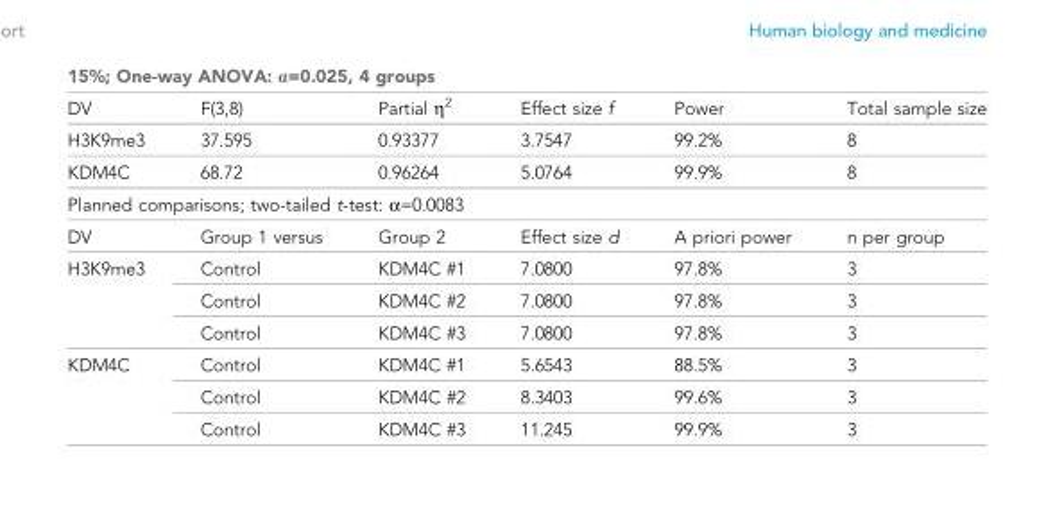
<table><thead><tr><td colspan="6">15%; One-way ANOVA: α=0.025, 4 groups</td></tr><tr><td>DV</td><td>F(3,8)</td><td>Partial η<sup>2</sup></td><td>Effect size f</td><td>Power</td><td>Total sample size</td></tr></thead><tbody><tr><td>H3K9me3</td><td>37.595</td><td>0.93377</td><td>3.7547</td><td>99.2%</td><td>8</td></tr><tr><td>KDM4C</td><td>68.72</td><td>0.96264</td><td>5.0764</td><td>99.9%</td><td>8</td></tr><tr><td colspan="6">Planned comparisons; two-tailed t-test: α=0.0083</td></tr><tr><td>DV</td><td>Group 1 versus</td><td>Group 2</td><td>Effect size d</td><td>A priori power</td><td>n per group</td></tr><tr><td rowspan="3">H3K9me3</td><td>Control</td><td>KDM4C #1</td><td>7.0800</td><td>97.8%</td><td>3</td></tr><tr><td>Control</td><td>KDM4C #2</td><td>7.0800</td><td>97.8%</td><td>3</td></tr><tr><td>Control</td><td>KDM4C #3</td><td>7.0800</td><td>97.8%</td><td>3</td></tr><tr><td rowspan="3">KDM4C</td><td>Control</td><td>KDM4C #1</td><td>5.6543</td><td>88.5%</td><td>3</td></tr><tr><td>Control</td><td>KDM4C #2</td><td>8.3403</td><td>99.6%</td><td>3</td></tr><tr><td>Control</td><td>KDM4C #3</td><td>11.245</td><td>99.9%</td><td>3</td></tr></tbody></table>